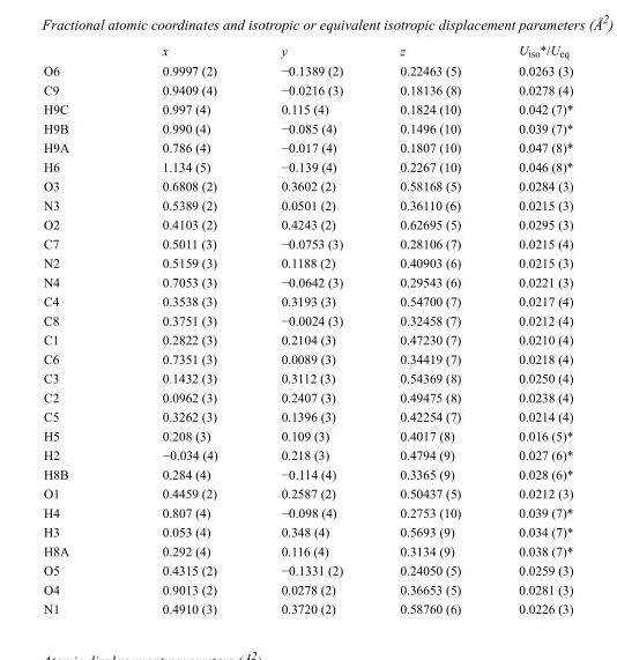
<table><thead><tr><td></td><td>x</td><td>y</td><td>z</td><td>U<sub>iso</sub>*/U<sub>eq</sub></td></tr></thead><tbody><tr><td>O6</td><td>0.9997 (2)</td><td>−0.1389 (2)</td><td>0.22463 (5)</td><td>0.0263 (3)</td></tr><tr><td>C9</td><td>0.9409 (4)</td><td>−0.0216 (3)</td><td>0.18136 (8)</td><td>0.0278 (4)</td></tr><tr><td>H9C</td><td>0.997 (4)</td><td>0.115 (4)</td><td>0.1824 (10)</td><td>0.042 (7)*</td></tr><tr><td>H9B</td><td>0.990 (4)</td><td>−0.085 (4)</td><td>0.1496 (10)</td><td>0.039 (7)*</td></tr><tr><td>H9A</td><td>0.786 (4)</td><td>−0.017 (4)</td><td>0.1807 (10)</td><td>0.047 (8)*</td></tr><tr><td>H6</td><td>1.134 (5)</td><td>−0.139 (4)</td><td>0.2267 (10)</td><td>0.046 (8)*</td></tr><tr><td>O3</td><td>0.6808 (2)</td><td>0.3602 (2)</td><td>0.58168 (5)</td><td>0.0284 (3)</td></tr><tr><td>N3</td><td>0.5389 (2)</td><td>0.0501 (2)</td><td>0.36110 (6)</td><td>0.0215 (3)</td></tr><tr><td>O2</td><td>0.4103 (2)</td><td>0.4243 (2)</td><td>0.62695 (5)</td><td>0.0295 (3)</td></tr><tr><td>C7</td><td>0.5011 (3)</td><td>−0.0753 (3)</td><td>0.28106 (7)</td><td>0.0215 (4)</td></tr><tr><td>N2</td><td>0.5159 (3)</td><td>0.1188 (2)</td><td>0.40903 (6)</td><td>0.0215 (3)</td></tr><tr><td>N4</td><td>0.7053 (3)</td><td>−0.0642 (3)</td><td>0.29543 (6)</td><td>0.0221 (3)</td></tr><tr><td>C4</td><td>0.3538 (3)</td><td>0.3193 (3)</td><td>0.54700 (7)</td><td>0.0217 (4)</td></tr><tr><td>C8</td><td>0.3751 (3)</td><td>−0.0024 (3)</td><td>0.32458 (7)</td><td>0.0212 (4)</td></tr><tr><td>C1</td><td>0.2822 (3)</td><td>0.2104 (3)</td><td>0.47230 (7)</td><td>0.0210 (4)</td></tr><tr><td>C6</td><td>0.7351 (3)</td><td>0.0089 (3)</td><td>0.34419 (7)</td><td>0.0218 (4)</td></tr><tr><td>C3</td><td>0.1432 (3)</td><td>0.3112 (3)</td><td>0.54369 (8)</td><td>0.0250 (4)</td></tr><tr><td>C2</td><td>0.0962 (3)</td><td>0.2407 (3)</td><td>0.49475 (8)</td><td>0.0238 (4)</td></tr><tr><td>C5</td><td>0.3262 (3)</td><td>0.1396 (3)</td><td>0.42254 (7)</td><td>0.0214 (4)</td></tr><tr><td>H5</td><td>0.208 (3)</td><td>0.109 (3)</td><td>0.4017 (8)</td><td>0.016 (5)*</td></tr><tr><td>H2</td><td>−0.034 (4)</td><td>0.218 (3)</td><td>0.4794 (9)</td><td>0.027 (6)*</td></tr><tr><td>H8B</td><td>0.284 (4)</td><td>−0.114 (4)</td><td>0.3365 (9)</td><td>0.028 (6)*</td></tr><tr><td>O1</td><td>0.4459 (2)</td><td>0.2587 (2)</td><td>0.50437 (5)</td><td>0.0212 (3)</td></tr><tr><td>H4</td><td>0.807 (4)</td><td>−0.098 (4)</td><td>0.2753 (10)</td><td>0.039 (7)*</td></tr><tr><td>H3</td><td>0.053 (4)</td><td>0.348 (4)</td><td>0.5693 (9)</td><td>0.034 (7)*</td></tr><tr><td>H8A</td><td>0.292 (4)</td><td>0.116 (4)</td><td>0.3134 (9)</td><td>0.038 (7)*</td></tr><tr><td>O5</td><td>0.4315 (2)</td><td>−0.1331 (2)</td><td>0.24050 (5)</td><td>0.0259 (3)</td></tr><tr><td>O4</td><td>0.9013 (2)</td><td>0.0278 (2)</td><td>0.36653 (5)</td><td>0.0281 (3)</td></tr><tr><td>N1</td><td>0.4910 (3)</td><td>0.3720 (2)</td><td>0.58760 (6)</td><td>0.0226 (3)</td></tr></tbody></table>